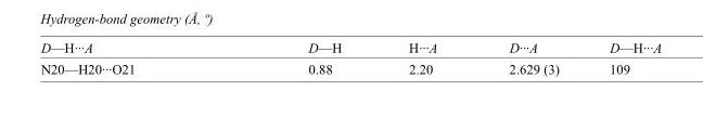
<table><tbody><tr><td>D—H···A</td><td>D—H</td><td>H···A</td><td>D···A</td><td>D—H···A</td></tr><tr><td>N20—H20···O21</td><td>0.88</td><td>2.20</td><td>2.629 (3)</td><td>109</td></tr></tbody></table>